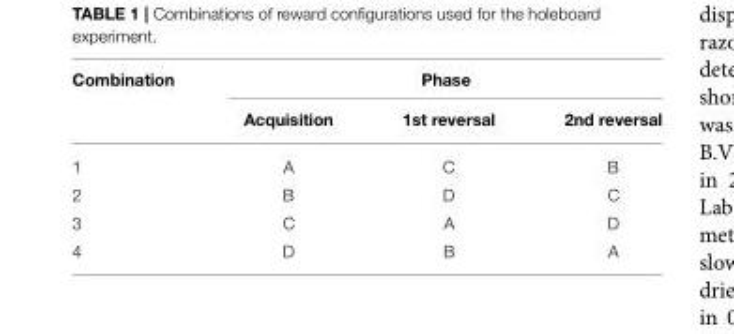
<table><thead><tr><td rowspan="2">Combination</td><td colspan="3">Phase</td></tr><tr><td>Acquisition</td><td>1st reversal</td><td>2nd reversal</td></tr></thead><tbody><tr><td>1</td><td>A</td><td>C</td><td>B</td></tr><tr><td>2</td><td>B</td><td>D</td><td>C</td></tr><tr><td>3</td><td>C</td><td>A</td><td>D</td></tr><tr><td>4</td><td>D</td><td>B</td><td>A</td></tr></tbody></table>